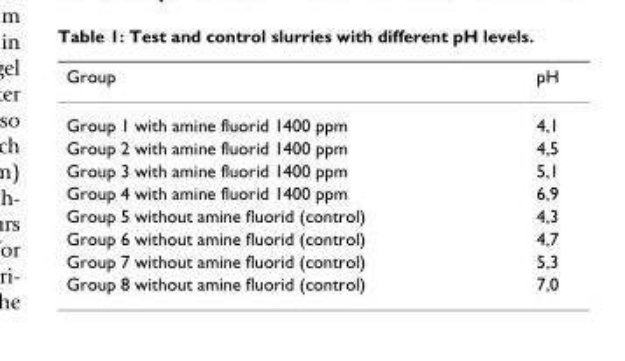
<table><thead><tr><td>Group</td><td>pH</td></tr></thead><tbody><tr><td>Group 1 with amine fluorid 1400 ppm</td><td>4,1</td></tr><tr><td>Group 2 with amine fluorid 1400 ppm</td><td>4,5</td></tr><tr><td>Group 3 with amine fluorid 1400 ppm</td><td>5,1</td></tr><tr><td>Group 4 with amine fluorid 1400 ppm</td><td>6,9</td></tr><tr><td>Group 5 without amine fluorid (control)</td><td>4,3</td></tr><tr><td>Group 6 without amine fluorid (control)</td><td>4,7</td></tr><tr><td>Group 7 without amine fluorid (control)</td><td>5,3</td></tr><tr><td>Group 8 without amine fluorid (control)</td><td>7,0</td></tr></tbody></table>